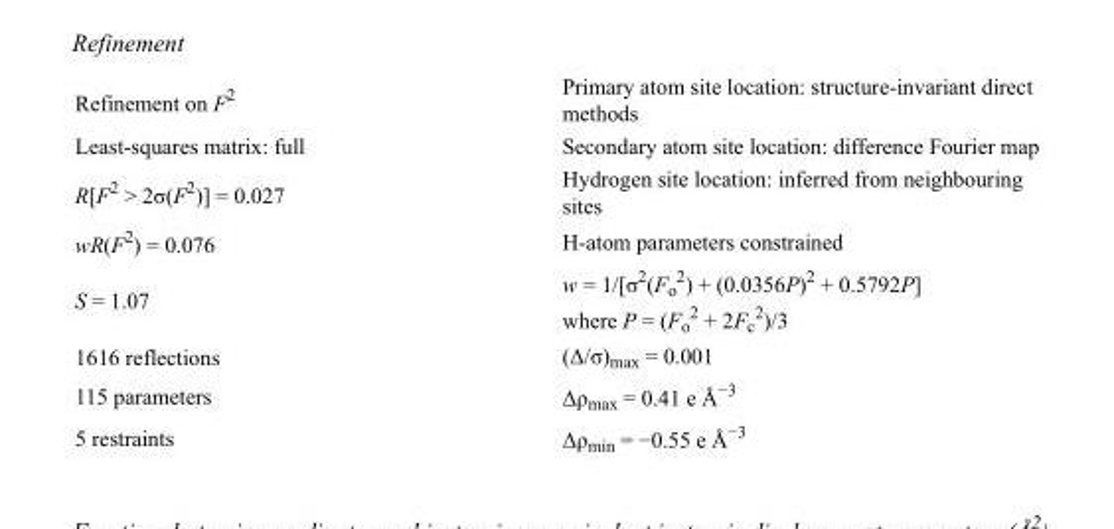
<table><tbody><tr><td>Refinement on F<sup>2</sup></td><td>Primary atom site location: structure-invariant direct methods</td></tr><tr><td>Least-squares matrix: full</td><td>Secondary atom site location: difference Fourier map</td></tr><tr><td>R[F<sup>2</sup> &gt; 2σ(F<sup>2</sup>)] = 0.027</td><td>Hydrogen site location: inferred from neighbouring sites</td></tr><tr><td>wR(F<sup>2</sup>) = 0.076</td><td>H-atom parameters constrained</td></tr><tr><td>S = 1.07</td><td>w = 1/[σ<sup>2</sup>(F<sub>o</sub> <sup>2</sup>) + (0.0356P)<sup>2</sup> + 0.5792P] where P = (F<sub>o</sub> <sup>2</sup> + 2F<sub>c</sub> <sup>2</sup>)/3</td></tr><tr><td>1616 reflections</td><td>(Δ/σ)<sub>max</sub> = 0.001</td></tr><tr><td>115 parameters</td><td>Δρ<sub>max</sub> = 0.41 e Å<sup>−3</sup></td></tr><tr><td>5 restraints</td><td>Δρ<sub>min</sub> = −0.55 e Å<sup>−3</sup></td></tr></tbody></table>